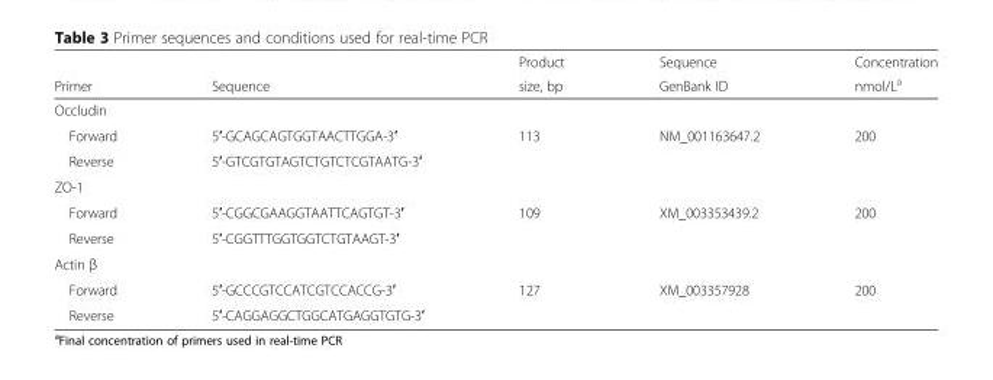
<table><thead><tr><td rowspan="2">Primer</td><td rowspan="2">Sequence</td><td rowspan="2">Product size, bp</td><td rowspan="2">Sequence GenBank ID</td><td rowspan="2">Concentration nmol/L<sup>a</sup></td></tr><tr></tr></thead><tbody><tr><td colspan="5">Occludin</td></tr><tr><td>Forward</td><td>5′-GCAGCAGTGGTAACTTGGA-3′</td><td>113</td><td>NM_001163647.2</td><td>200</td></tr><tr><td>Reverse</td><td>5′-GTCGTGTAGTCTGTCTCGTAATG-3′</td><td></td><td></td><td></td></tr><tr><td colspan="5">ZO-1</td></tr><tr><td>Forward</td><td>5′-CGGCGAAGGTAATTCAGTGT-3′</td><td>109</td><td>XM_003353439.2</td><td>200</td></tr><tr><td>Reverse</td><td>5′-CGGTTTGGTGGTCTGTAAGT-3′</td><td></td><td></td><td></td></tr><tr><td colspan="5">Actin β</td></tr><tr><td>Forward</td><td>5′-GCCCGTCCATCGTCCACCG-3′</td><td>127</td><td>XM_003357928</td><td>200</td></tr><tr><td>Reverse</td><td>5′-CAGGAGGCTGGCATGAGGTGTG-3′</td><td></td><td></td><td></td></tr></tbody></table>